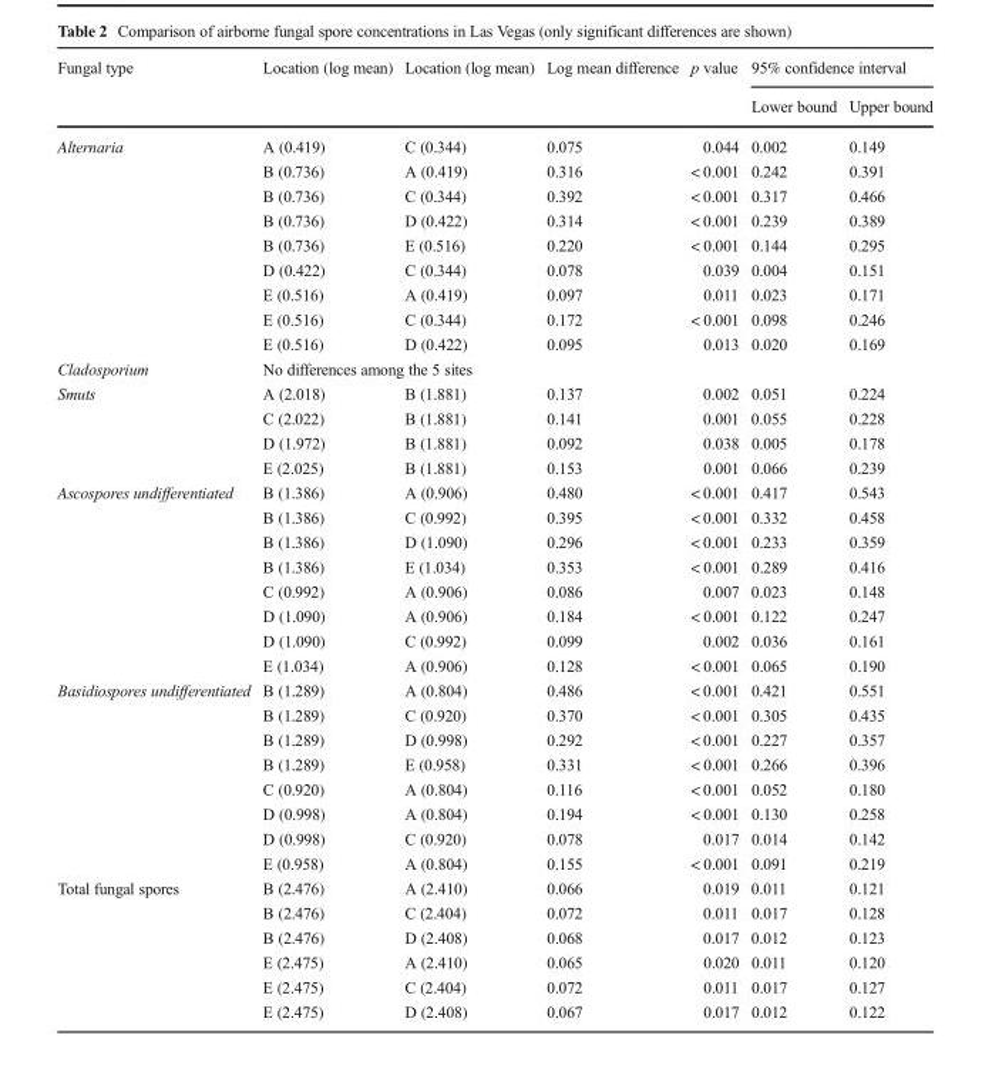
<table><thead><tr><td rowspan="2">Fungal type</td><td rowspan="2">Location (log mean)</td><td rowspan="2">Location (log mean)</td><td rowspan="2">Log mean difference</td><td rowspan="2">p value</td><td colspan="2">95% confidence interval</td></tr><tr><td>Lower bound</td><td>Upper bound</td></tr></thead><tbody><tr><td rowspan="9">Alternaria</td><td>A (0.419)</td><td>C (0.344)</td><td>0.075</td><td>0.044</td><td>0.002</td><td>0.149</td></tr><tr><td>B (0.736)</td><td>A (0.419)</td><td>0.316</td><td>&lt; 0.001</td><td>0.242</td><td>0.391</td></tr><tr><td>B (0.736)</td><td>C (0.344)</td><td>0.392</td><td>&lt; 0.001</td><td>0.317</td><td>0.466</td></tr><tr><td>B (0.736)</td><td>D (0.422)</td><td>0.314</td><td>&lt; 0.001</td><td>0.239</td><td>0.389</td></tr><tr><td>B (0.736)</td><td>E (0.516)</td><td>0.220</td><td>&lt; 0.001</td><td>0.144</td><td>0.295</td></tr><tr><td>D (0.422)</td><td>C (0.344)</td><td>0.078</td><td>0.039</td><td>0.004</td><td>0.151</td></tr><tr><td>E (0.516)</td><td>A (0.419)</td><td>0.097</td><td>0.011</td><td>0.023</td><td>0.171</td></tr><tr><td>E (0.516)</td><td>C (0.344)</td><td>0.172</td><td>&lt; 0.001</td><td>0.098</td><td>0.246</td></tr><tr><td>E (0.516)</td><td>D (0.422)</td><td>0.095</td><td>0.013</td><td>0.020</td><td>0.169</td></tr><tr><td>Cladosporium</td><td colspan="6">No differences among the 5 sites</td></tr><tr><td rowspan="4">Smuts</td><td>A (2.018)</td><td>B (1.881)</td><td>0.137</td><td>0.002</td><td>0.051</td><td>0.224</td></tr><tr><td>C (2.022)</td><td>B (1.881)</td><td>0.141</td><td>0.001</td><td>0.055</td><td>0.228</td></tr><tr><td>D (1.972)</td><td>B (1.881)</td><td>0.092</td><td>0.038</td><td>0.005</td><td>0.178</td></tr><tr><td>E (2.025)</td><td>B (1.881)</td><td>0.153</td><td>0.001</td><td>0.066</td><td>0.239</td></tr><tr><td rowspan="8">Ascospores undifferentiated</td><td>B (1.386)</td><td>A (0.906)</td><td>0.480</td><td>&lt; 0.001</td><td>0.417</td><td>0.543</td></tr><tr><td>B (1.386)</td><td>C (0.992)</td><td>0.395</td><td>&lt; 0.001</td><td>0.332</td><td>0.458</td></tr><tr><td>B (1.386)</td><td>D (1.090)</td><td>0.296</td><td>&lt; 0.001</td><td>0.233</td><td>0.359</td></tr><tr><td>B (1.386)</td><td>E (1.034)</td><td>0.353</td><td>&lt; 0.001</td><td>0.289</td><td>0.416</td></tr><tr><td>C (0.992)</td><td>A (0.906)</td><td>0.086</td><td>0.007</td><td>0.023</td><td>0.148</td></tr><tr><td>D (1.090)</td><td>A (0.906)</td><td>0.184</td><td>&lt; 0.001</td><td>0.122</td><td>0.247</td></tr><tr><td>D (1.090)</td><td>C (0.992)</td><td>0.099</td><td>0.002</td><td>0.036</td><td>0.161</td></tr><tr><td>E (1.034)</td><td>A (0.906)</td><td>0.128</td><td>&lt; 0.001</td><td>0.065</td><td>0.190</td></tr><tr><td rowspan="8">Basidiospores undifferentiated</td><td>B (1.289)</td><td>A (0.804)</td><td>0.486</td><td>&lt; 0.001</td><td>0.421</td><td>0.551</td></tr><tr><td>B (1.289)</td><td>C (0.920)</td><td>0.370</td><td>&lt; 0.001</td><td>0.305</td><td>0.435</td></tr><tr><td>B (1.289)</td><td>D (0.998)</td><td>0.292</td><td>&lt; 0.001</td><td>0.227</td><td>0.357</td></tr><tr><td>B (1.289)</td><td>E (0.958)</td><td>0.331</td><td>&lt; 0.001</td><td>0.266</td><td>0.396</td></tr><tr><td>C (0.920)</td><td>A (0.804)</td><td>0.116</td><td>&lt; 0.001</td><td>0.052</td><td>0.180</td></tr><tr><td>D (0.998)</td><td>A (0.804)</td><td>0.194</td><td>&lt; 0.001</td><td>0.130</td><td>0.258</td></tr><tr><td>D (0.998)</td><td>C (0.920)</td><td>0.078</td><td>0.017</td><td>0.014</td><td>0.142</td></tr><tr><td>E (0.958)</td><td>A (0.804)</td><td>0.155</td><td>&lt; 0.001</td><td>0.091</td><td>0.219</td></tr><tr><td rowspan="6">Total fungal spores</td><td>B (2.476)</td><td>A (2.410)</td><td>0.066</td><td>0.019</td><td>0.011</td><td>0.121</td></tr><tr><td>B (2.476)</td><td>C (2.404)</td><td>0.072</td><td>0.011</td><td>0.017</td><td>0.128</td></tr><tr><td>B (2.476)</td><td>D (2.408)</td><td>0.068</td><td>0.017</td><td>0.012</td><td>0.123</td></tr><tr><td>E (2.475)</td><td>A (2.410)</td><td>0.065</td><td>0.020</td><td>0.011</td><td>0.120</td></tr><tr><td>E (2.475)</td><td>C (2.404)</td><td>0.072</td><td>0.011</td><td>0.017</td><td>0.127</td></tr><tr><td>E (2.475)</td><td>D (2.408)</td><td>0.067</td><td>0.017</td><td>0.012</td><td>0.122</td></tr></tbody></table>